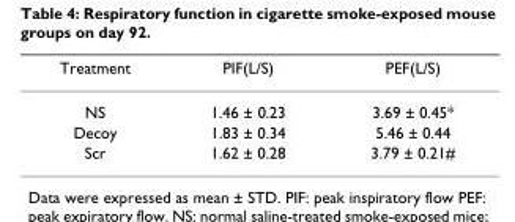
<table><thead><tr><td>Treatment</td><td>PIF(L/S)</td><td>PEF(L/S)</td></tr></thead><tbody><tr><td>NS</td><td>1.46 ± 0.23</td><td>3.69 ± 0.45*</td></tr><tr><td>Decoy</td><td>1.83 ± 0.34</td><td>5.46 ± 0.44</td></tr><tr><td>Scr</td><td>1.62 ± 0.28</td><td>3.79 ± 0.21#</td></tr></tbody></table>